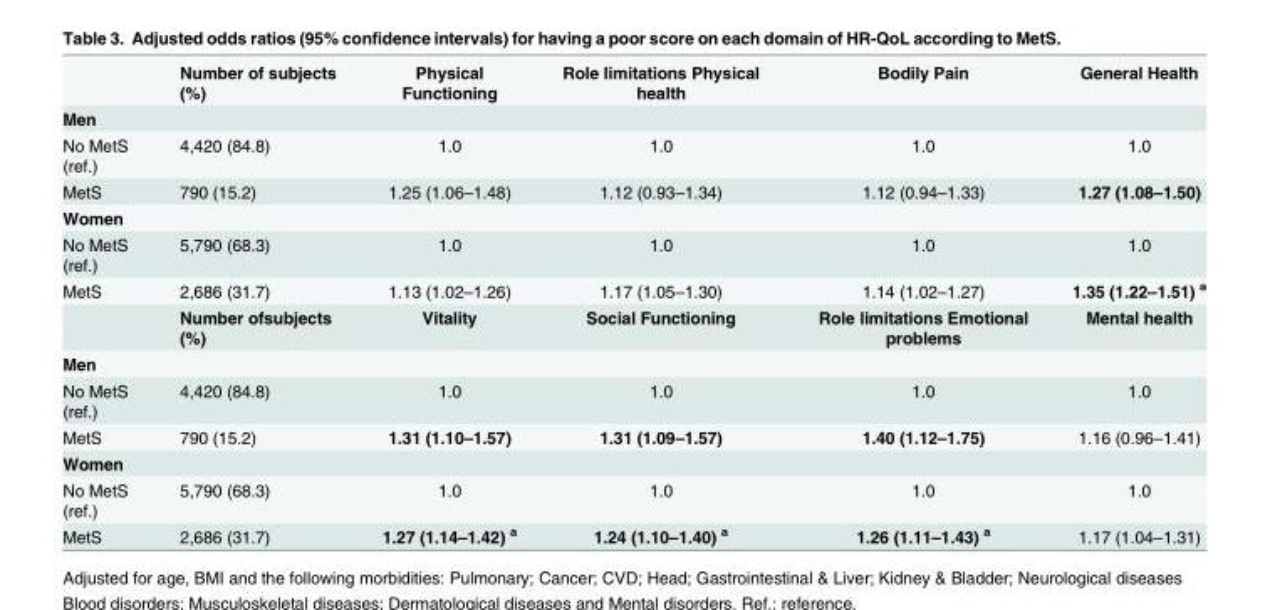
<table><thead><tr><td></td><td>Number of subjects (%)</td><td>Physical Functioning</td><td>Role limitations Physical health</td><td>Bodily Pain</td><td>General Health</td></tr></thead><tbody><tr><td colspan="6">Men</td></tr><tr><td>No MetS (ref.)</td><td>4,420 (84.8)</td><td>1.0</td><td>1.0</td><td>1.0</td><td>1.0</td></tr><tr><td>MetS</td><td>790 (15.2)</td><td>1.25 (1.06–1.48)</td><td>1.12 (0.93–1.34)</td><td>1.12 (0.94–1.33)</td><td>1.27 (1.08–1.50)</td></tr><tr><td colspan="6">Women</td></tr><tr><td>No MetS (ref.)</td><td>5,790 (68.3)</td><td>1.0</td><td>1.0</td><td>1.0</td><td>1.0</td></tr><tr><td rowspan="2">MetS</td><td>2,686 (31.7)</td><td>1.13 (1.02–1.26)</td><td>1.17 (1.05–1.30)</td><td>1.14 (1.02–1.27)</td><td>1.35 (1.22–1.51) <sup>a</sup></td></tr><tr><td>Number ofsubjects (%)</td><td>Vitality</td><td>Social Functioning</td><td>Role limitations Emotional problems</td><td>Mental health</td></tr><tr><td colspan="6">Men</td></tr><tr><td>No MetS (ref.)</td><td>4,420 (84.8)</td><td>1.0</td><td>1.0</td><td>1.0</td><td>1.0</td></tr><tr><td>MetS</td><td>790 (15.2)</td><td>1.31 (1.10–1.57)</td><td>1.31 (1.09–1.57)</td><td>1.40 (1.12–1.75)</td><td>1.16 (0.96–1.41)</td></tr><tr><td colspan="6">Women</td></tr><tr><td>No MetS (ref.)</td><td>5,790 (68.3)</td><td>1.0</td><td>1.0</td><td>1.0</td><td>1.0</td></tr><tr><td>MetS</td><td>2,686 (31.7)</td><td>1.27 (1.14–1.42) <sup>a</sup></td><td>1.24 (1.10–1.40) <sup>a</sup></td><td>1.26 (1.11–1.43) <sup>a</sup></td><td>1.17 (1.04–1.31)</td></tr></tbody></table>